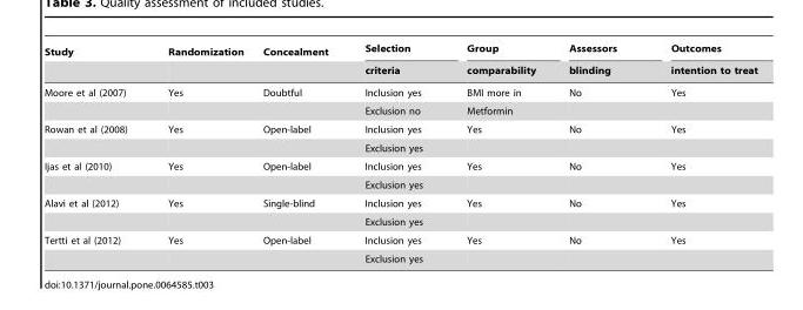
<table><thead><tr><td rowspan="2">Study</td><td rowspan="2">Randomization</td><td rowspan="2">Concealment</td><td rowspan="2">Selection criteria</td><td rowspan="2">Group comparability</td><td rowspan="2">Assessors blinding</td><td rowspan="2">Outcomes intention to treat</td></tr><tr></tr></thead><tbody><tr><td rowspan="2">Moore et al (2007)</td><td>Yes</td><td>Doubtful</td><td>Inclusion yes</td><td>BMI more in</td><td>No</td><td>Yes</td></tr><tr><td></td><td></td><td>Exclusion no</td><td>Metformin</td><td></td><td></td></tr><tr><td rowspan="2">Rowan et al (2008)</td><td>Yes</td><td>Open-label</td><td>Inclusion yes</td><td>Yes</td><td>No</td><td>Yes</td></tr><tr><td></td><td></td><td>Exclusion yes</td><td></td><td></td><td></td></tr><tr><td rowspan="2">Ijas et al (2010)</td><td>Yes</td><td>Open-label</td><td>Inclusion yes</td><td>Yes</td><td>No</td><td>Yes</td></tr><tr><td></td><td></td><td>Exclusion yes</td><td></td><td></td><td></td></tr><tr><td rowspan="2">Alavi et al (2012)</td><td>Yes</td><td>Single-blind</td><td>Inclusion yes</td><td>Yes</td><td>No</td><td>Yes</td></tr><tr><td></td><td></td><td>Exclusion yes</td><td></td><td></td><td></td></tr><tr><td rowspan="2">Tertti et al (2012)</td><td>Yes</td><td>Open-label</td><td>Inclusion yes</td><td>Yes</td><td>No</td><td>Yes</td></tr><tr><td></td><td></td><td>Exclusion yes</td><td></td><td></td><td></td></tr></tbody></table>